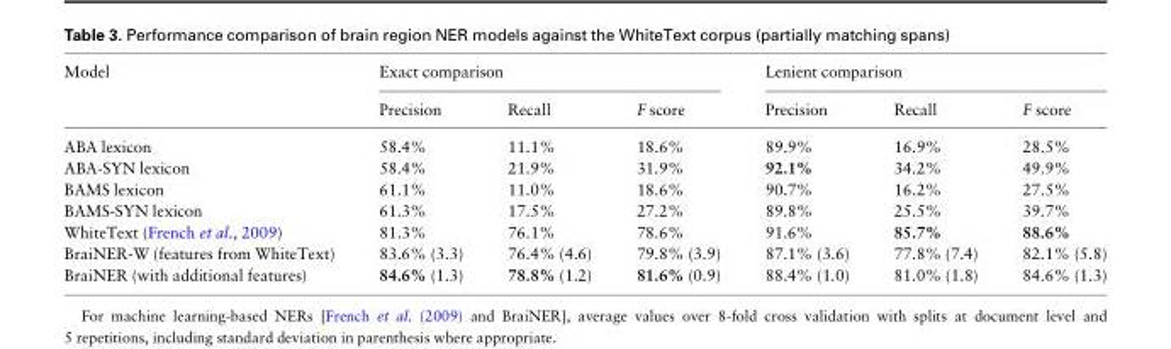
<table><thead><tr><td rowspan="2">Model</td><td colspan="3">Exact comparison</td><td colspan="3">Lenient comparison</td></tr><tr><td>Precision</td><td>Recall</td><td>F score</td><td>Precision</td><td>Recall</td><td>F score</td></tr></thead><tbody><tr><td>ABA lexicon</td><td>58.4%</td><td>11.1%</td><td>18.6%</td><td>89.9%</td><td>16.9%</td><td>28.5%</td></tr><tr><td>ABA-SYN lexicon</td><td>58.4%</td><td>21.9%</td><td>31.9%</td><td>92.1%</td><td>34.2%</td><td>49.9%</td></tr><tr><td>BAMS lexicon</td><td>61.1%</td><td>11.0%</td><td>18.6%</td><td>90.7%</td><td>16.2%</td><td>27.5%</td></tr><tr><td>BAMS-SYN lexicon</td><td>61.3%</td><td>17.5%</td><td>27.2%</td><td>89.8%</td><td>25.5%</td><td>39.7%</td></tr><tr><td>WhiteText (French et al., 2009)</td><td>81.3%</td><td>76.1%</td><td>78.6%</td><td>91.6%</td><td>85.7%</td><td>88.6%</td></tr><tr><td>BraiNER-W (features from WhiteText)</td><td>83.6% (3.3)</td><td>76.4% (4.6)</td><td>79.8% (3.9)</td><td>87.1% (3.6)</td><td>77.8% (7.4)</td><td>82.1% (5.8)</td></tr><tr><td>BraiNER (with additional features)</td><td>84.6% (1.3)</td><td>78.8% (1.2)</td><td>81.6% (0.9)</td><td>88.4% (1.0)</td><td>81.0% (1.8)</td><td>84.6% (1.3)</td></tr></tbody></table>